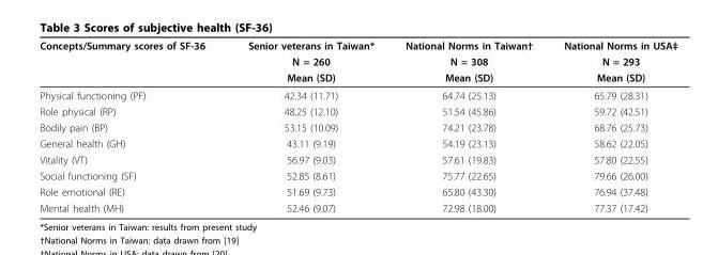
<table><thead><tr><td rowspan="3">Concepts/Summary scores of SF-36</td><td rowspan="3">Senior veterans in Taiwan* N = 260 Mean (SD)</td><td rowspan="3">National Norms in Taiwan† N = 308 Mean (SD)</td><td rowspan="3">National Norms in USA‡ N = 293 Mean (SD)</td></tr><tr></tr><tr></tr></thead><tbody><tr><td>Physical functioning (PF)</td><td>42.34 (11.71)</td><td>64.74 (25.13)</td><td>65.79 (28.31)</td></tr><tr><td>Role physical (RP)</td><td>48.25 (12.10)</td><td>51.54 (45.86)</td><td>59.72 (42.51)</td></tr><tr><td>Bodily pain (BP)</td><td>53.15 (10.09)</td><td>74.21 (23.78)</td><td>68.76 (25.73)</td></tr><tr><td>General health (GH)</td><td>43.11 (9.19)</td><td>54.19 (23.13)</td><td>58.62 (22.05)</td></tr><tr><td>Vitality (VT)</td><td>56.97 (9.03)</td><td>57.61 (19.83)</td><td>57.80 (22.55)</td></tr><tr><td>Social functioning (SF)</td><td>52.85 (8.61)</td><td>75.77 (22.65)</td><td>79.66 (26.00)</td></tr><tr><td>Role emotional (RE)</td><td>51.69 (9.73)</td><td>65.80 (43.30)</td><td>76.94 (37.48)</td></tr><tr><td>Mental health (MH)</td><td>52.46 (9.07)</td><td>72.98 (18.00)</td><td>77.37 (17.42)</td></tr></tbody></table>